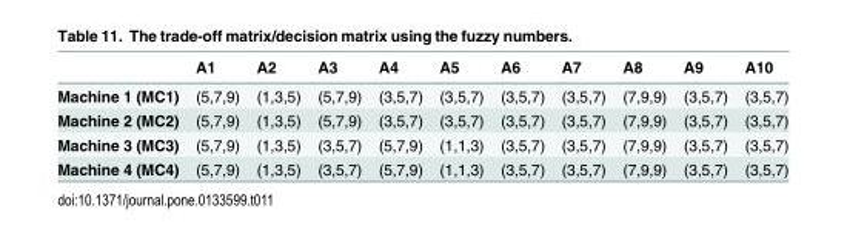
<table><thead><tr><td></td><td>A1</td><td>A2</td><td>A3</td><td>A4</td><td>A5</td><td>A6</td><td>A7</td><td>A8</td><td>A9</td><td>A10</td></tr></thead><tbody><tr><td>Machine 1 (MC1)</td><td>(5,7,9)</td><td>(1,3,5)</td><td>(5,7,9)</td><td>(3,5,7)</td><td>(3,5,7)</td><td>(3,5,7)</td><td>(3,5,7)</td><td>(7,9,9)</td><td>(3,5,7)</td><td>(3,5,7)</td></tr><tr><td>Machine 2 (MC2)</td><td>(5,7,9)</td><td>(1,3,5)</td><td>(5,7,9)</td><td>(3,5,7)</td><td>(3,5,7)</td><td>(3,5,7)</td><td>(3,5,7)</td><td>(7,9,9)</td><td>(3,5,7)</td><td>(3,5,7)</td></tr><tr><td>Machine 3 (MC3)</td><td>(5,7,9)</td><td>(1,3,5)</td><td>(3,5,7)</td><td>(5,7,9)</td><td>(1,1,3)</td><td>(3,5,7)</td><td>(3,5,7)</td><td>(7,9,9)</td><td>(3,5,7)</td><td>(3,5,7)</td></tr><tr><td>Machine 4 (MC4)</td><td>(5,7,9)</td><td>(1,3,5)</td><td>(3,5,7)</td><td>(5,7,9)</td><td>(1,1,3)</td><td>(3,5,7)</td><td>(3,5,7)</td><td>(7,9,9)</td><td>(3,5,7)</td><td>(3,5,7)</td></tr></tbody></table>